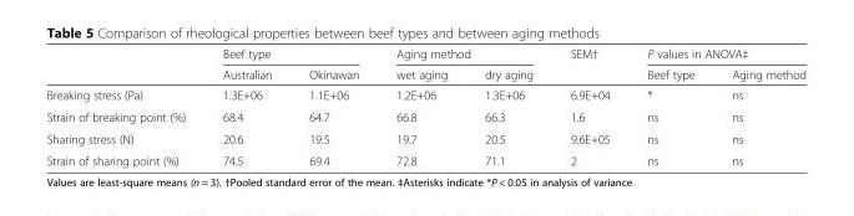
<table><thead><tr><td rowspan="2"></td><td colspan="2">Beef type</td><td colspan="2">Aging method</td><td rowspan="2">SEM†</td><td colspan="2">P values in ANOVA‡</td></tr><tr><td>Australian</td><td>Okinawan</td><td>wet aging</td><td>dry aging</td><td>Beef type</td><td>Aging method</td></tr></thead><tbody><tr><td>Breaking stress (Pa)</td><td>1.3E+06</td><td>1.1E+06</td><td>1.2E+06</td><td>1.3E+06</td><td>6.9E+04</td><td>*</td><td>ns</td></tr><tr><td>Strain of breaking point (%)</td><td>68.4</td><td>64.7</td><td>66.8</td><td>66.3</td><td>1.6</td><td>ns</td><td>ns</td></tr><tr><td>Sharing stress (N)</td><td>20.6</td><td>19.5</td><td>19.7</td><td>20.5</td><td>9.6E+05</td><td>ns</td><td>ns</td></tr><tr><td>Strain of sharing point (%)</td><td>74.5</td><td>69.4</td><td>72.8</td><td>71.1</td><td>2</td><td>ns</td><td>ns</td></tr></tbody></table>